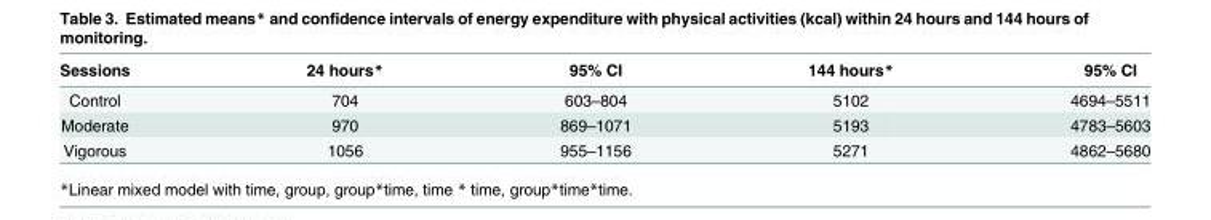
<table><thead><tr><td>Sessions</td><td>24 hours*</td><td>95% CI</td><td>144 hours*</td><td>95% CI</td></tr></thead><tbody><tr><td>Control</td><td>704</td><td>603–804</td><td>5102</td><td>4694–5511</td></tr><tr><td>Moderate</td><td>970</td><td>869–1071</td><td>5193</td><td>4783–5603</td></tr><tr><td>Vigorous</td><td>1056</td><td>955–1156</td><td>5271</td><td>4862–5680</td></tr></tbody></table>